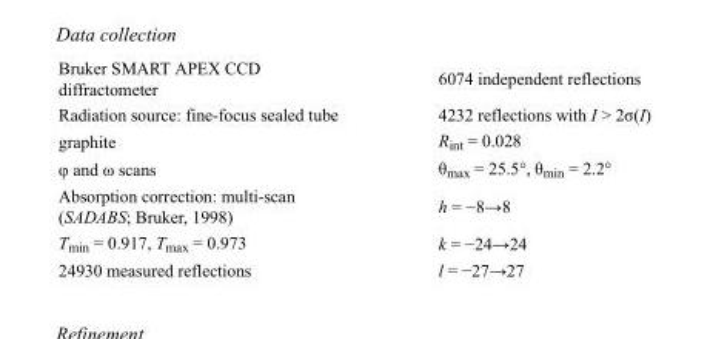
<table><tbody><tr><td>Bruker SMART APEX CCD diffractometer</td><td>6074 independent reflections</td></tr><tr><td>Radiation source: fine-focus sealed tube</td><td>4232 reflections with I &gt; 2σ(I)</td></tr><tr><td>graphite</td><td>R<sub>int</sub> = 0.028</td></tr><tr><td>φ and ω scans</td><td>θ<sub>max</sub> = 25.5°, θ<sub>min</sub> = 2.2°</td></tr><tr><td>Absorption correction: multi-scan (SADABS; Bruker, 1998)</td><td>h = −8→8</td></tr><tr><td>T<sub>min</sub> = 0.917, T<sub>max</sub> = 0.973</td><td>k = −24→24</td></tr><tr><td>24930 measured reflections</td><td>l = −27→27</td></tr></tbody></table>